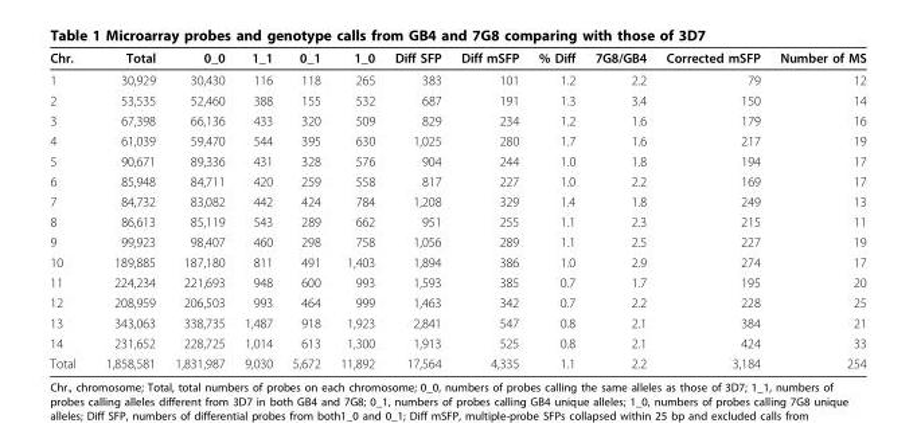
<table><thead><tr><td>Chr.</td><td>Total</td><td>0_0</td><td>1_1</td><td>0_1</td><td>1_0</td><td>Diff SFP</td><td>Diff mSFP</td><td>% Diff</td><td>7G8/GB4</td><td>Corrected mSFP</td><td>Number of MS</td></tr></thead><tbody><tr><td>1</td><td>30,929</td><td>30,430</td><td>116</td><td>118</td><td>265</td><td>383</td><td>101</td><td>1.2</td><td>2.2</td><td>79</td><td>12</td></tr><tr><td>2</td><td>53,535</td><td>52,460</td><td>388</td><td>155</td><td>532</td><td>687</td><td>191</td><td>1.3</td><td>3.4</td><td>150</td><td>14</td></tr><tr><td>3</td><td>67,398</td><td>66,136</td><td>433</td><td>320</td><td>509</td><td>829</td><td>234</td><td>1.2</td><td>1.6</td><td>179</td><td>16</td></tr><tr><td>4</td><td>61,039</td><td>59,470</td><td>544</td><td>395</td><td>630</td><td>1,025</td><td>280</td><td>1.7</td><td>1.6</td><td>217</td><td>19</td></tr><tr><td>5</td><td>90,671</td><td>89,336</td><td>431</td><td>328</td><td>576</td><td>904</td><td>244</td><td>1.0</td><td>1.8</td><td>194</td><td>17</td></tr><tr><td>6</td><td>85,948</td><td>84,711</td><td>420</td><td>259</td><td>558</td><td>817</td><td>227</td><td>1.0</td><td>2.2</td><td>169</td><td>17</td></tr><tr><td>7</td><td>84,732</td><td>83,082</td><td>442</td><td>424</td><td>784</td><td>1,208</td><td>329</td><td>1.4</td><td>1.8</td><td>249</td><td>13</td></tr><tr><td>8</td><td>86,613</td><td>85,119</td><td>543</td><td>289</td><td>662</td><td>951</td><td>255</td><td>1.1</td><td>2.3</td><td>215</td><td>11</td></tr><tr><td>9</td><td>99,923</td><td>98,407</td><td>460</td><td>298</td><td>758</td><td>1,056</td><td>289</td><td>1.1</td><td>2.5</td><td>227</td><td>19</td></tr><tr><td>10</td><td>189,885</td><td>187,180</td><td>811</td><td>491</td><td>1,403</td><td>1,894</td><td>386</td><td>1.0</td><td>2.9</td><td>274</td><td>17</td></tr><tr><td>11</td><td>224,234</td><td>221,693</td><td>948</td><td>600</td><td>993</td><td>1,593</td><td>385</td><td>0.7</td><td>1.7</td><td>195</td><td>20</td></tr><tr><td>12</td><td>208,959</td><td>206,503</td><td>993</td><td>464</td><td>999</td><td>1,463</td><td>342</td><td>0.7</td><td>2.2</td><td>228</td><td>25</td></tr><tr><td>13</td><td>343,063</td><td>338,735</td><td>1,487</td><td>918</td><td>1,923</td><td>2,841</td><td>547</td><td>0.8</td><td>2.1</td><td>384</td><td>21</td></tr><tr><td>14</td><td>231,652</td><td>228,725</td><td>1,014</td><td>613</td><td>1,300</td><td>1,913</td><td>525</td><td>0.8</td><td>2.1</td><td>424</td><td>33</td></tr><tr><td>Total</td><td>1,858,581</td><td>1,831,987</td><td>9,030</td><td>5,672</td><td>11,892</td><td>17,564</td><td>4,335</td><td>1.1</td><td>2.2</td><td>3,184</td><td>254</td></tr></tbody></table>